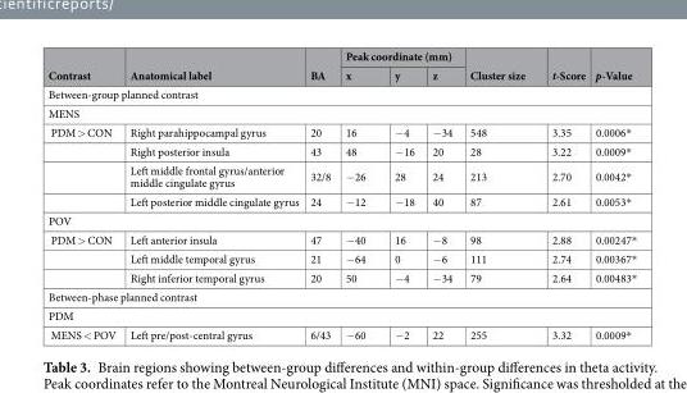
<table><thead><tr><td rowspan="2">Contrast</td><td rowspan="2">Anatomical label</td><td rowspan="2">BA</td><td colspan="3">Peak coordinate (mm)</td><td rowspan="2">Cluster size</td><td rowspan="2">t-Score</td><td rowspan="2">p-Value</td></tr><tr><td>x</td><td>y</td><td>z</td></tr></thead><tbody><tr><td colspan="9">Between-group planned contrast</td></tr><tr><td colspan="9">MENS</td></tr><tr><td rowspan="4">PDM &gt; CON</td><td>Right parahippocampal gyrus</td><td>20</td><td>16</td><td>−4</td><td>−34</td><td>548</td><td>3.35</td><td>0.0006*</td></tr><tr><td>Right posterior insula</td><td>43</td><td>48</td><td>−16</td><td>20</td><td>28</td><td>3.22</td><td>0.0009*</td></tr><tr><td>Left middle frontal gyrus/anterior middle cingulate gyrus</td><td>32/8</td><td>−26</td><td>28</td><td>24</td><td>213</td><td>2.70</td><td>0.0042*</td></tr><tr><td>Left posterior middle cingulate gyrus</td><td>24</td><td>−12</td><td>−18</td><td>40</td><td>87</td><td>2.61</td><td>0.0053*</td></tr><tr><td colspan="9">POV</td></tr><tr><td rowspan="3">PDM &gt; CON</td><td>Left anterior insula</td><td>47</td><td>−40</td><td>16</td><td>−8</td><td>98</td><td>2.88</td><td>0.00247*</td></tr><tr><td>Left middle temporal gyrus</td><td>21</td><td>−64</td><td>0</td><td>−6</td><td>111</td><td>2.74</td><td>0.00367*</td></tr><tr><td>Right inferior temporal gyrus</td><td>20</td><td>50</td><td>−4</td><td>−34</td><td>79</td><td>2.64</td><td>0.00483*</td></tr><tr><td colspan="9">Between-phase planned contrast</td></tr><tr><td colspan="9">PDM</td></tr><tr><td>MENS &lt; POV</td><td>Left pre/post-central gyrus</td><td>6/43</td><td>−60</td><td>−2</td><td>22</td><td>255</td><td>3.32</td><td>0.0009*</td></tr></tbody></table>